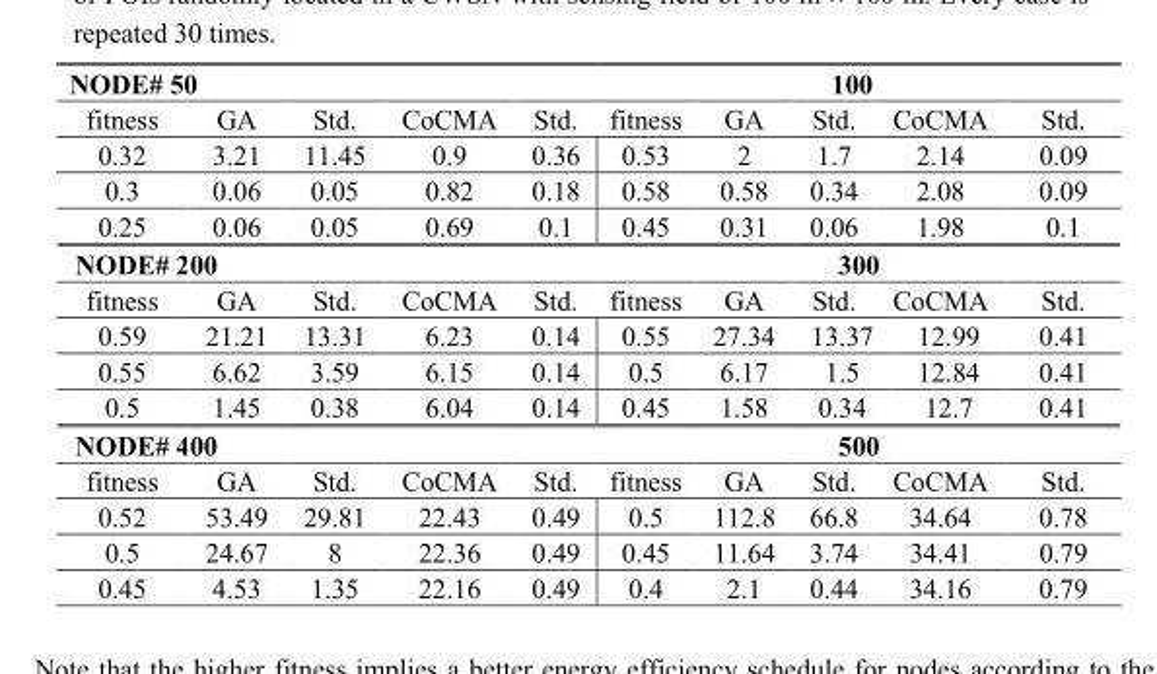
<table><thead><tr><td colspan="2">NODE# 50</td><td rowspan="2">Std.</td><td rowspan="2">CoCMA</td><td rowspan="2">Std.</td><td rowspan="2">fitness</td><td rowspan="2">GA</td><td rowspan="2">100 Std.</td><td rowspan="2">CoCMA</td><td rowspan="2">Std.</td></tr><tr><td>fitness</td><td>GA</td></tr></thead><tbody><tr><td>0.32</td><td>3.21</td><td>11.45</td><td>0.9</td><td>0.36</td><td>0.53</td><td>2</td><td>1.7</td><td>2.14</td><td>0.09</td></tr><tr><td>0.3</td><td>0.06</td><td>0.05</td><td>0.82</td><td>0.18</td><td>0.58</td><td>0.58</td><td>0.34</td><td>2.08</td><td>0.09</td></tr><tr><td>0.25</td><td>0.06</td><td>0.05</td><td>0.69</td><td>0.1</td><td>0.45</td><td>0.31</td><td>0.06</td><td>1.98</td><td>0.1</td></tr><tr><td colspan="2">NODE# 200</td><td></td><td></td><td></td><td></td><td></td><td>300</td><td></td><td></td></tr><tr><td>fitness</td><td>GA</td><td>Std.</td><td>CoCMA</td><td>Std.</td><td>fitness</td><td>GA</td><td>Std.</td><td>CoCMA</td><td>Std.</td></tr><tr><td>0.59</td><td>21.21</td><td>13.31</td><td>6.23</td><td>0.14</td><td>0.55</td><td>27.34</td><td>13.37</td><td>12.99</td><td>0.41</td></tr><tr><td>0.55</td><td>6.62</td><td>3.59</td><td>6.15</td><td>0.14</td><td>0.5</td><td>6.17</td><td>1.5</td><td>12.84</td><td>0.41</td></tr><tr><td>0.5</td><td>1.45</td><td>0.38</td><td>6.04</td><td>0.14</td><td>0.45</td><td>1.58</td><td>0.34</td><td>12.7</td><td>0.41</td></tr><tr><td colspan="2">NODE# 400</td><td></td><td></td><td></td><td></td><td></td><td>500</td><td></td><td></td></tr><tr><td>fitness</td><td>GA</td><td>Std.</td><td>CoCMA</td><td>Std.</td><td>fitness</td><td>GA</td><td>Std.</td><td>CoCMA</td><td>Std.</td></tr><tr><td>0.52</td><td>53.49</td><td>29.81</td><td>22.43</td><td>0.49</td><td>0.5</td><td>112.8</td><td>66.8</td><td>34.64</td><td>0.78</td></tr><tr><td>0.5</td><td>24.67</td><td>8</td><td>22.36</td><td>0.49</td><td>0.45</td><td>11.64</td><td>3.74</td><td>34.41</td><td>0.79</td></tr><tr><td>0.45</td><td>4.53</td><td>1.35</td><td>22.16</td><td>0.49</td><td>0.4</td><td>2.1</td><td>0.44</td><td>34.16</td><td>0.79</td></tr></tbody></table>